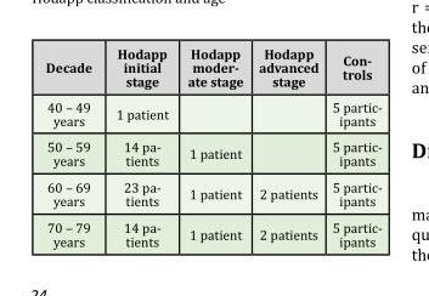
<table><thead><tr><td>Decade</td><td>Hodapp initial stage</td><td>Hodapp moder- ate stage</td><td>Hodapp advanced stage</td><td>Con- trols</td></tr></thead><tbody><tr><td>40 – 49 years</td><td>1 patient</td><td></td><td></td><td>5 partic- ipants</td></tr><tr><td>50 – 59 years</td><td>14 pa- tients</td><td>1 patient</td><td></td><td>5 partic- ipants</td></tr><tr><td>60 – 69 years</td><td>23 pa- tients</td><td>1 patient</td><td>2 patients</td><td>5 partic- ipants</td></tr><tr><td>70 – 79 years</td><td>14 pa- tients</td><td>1 patient</td><td>2 patients</td><td>5 partic- ipants</td></tr></tbody></table>